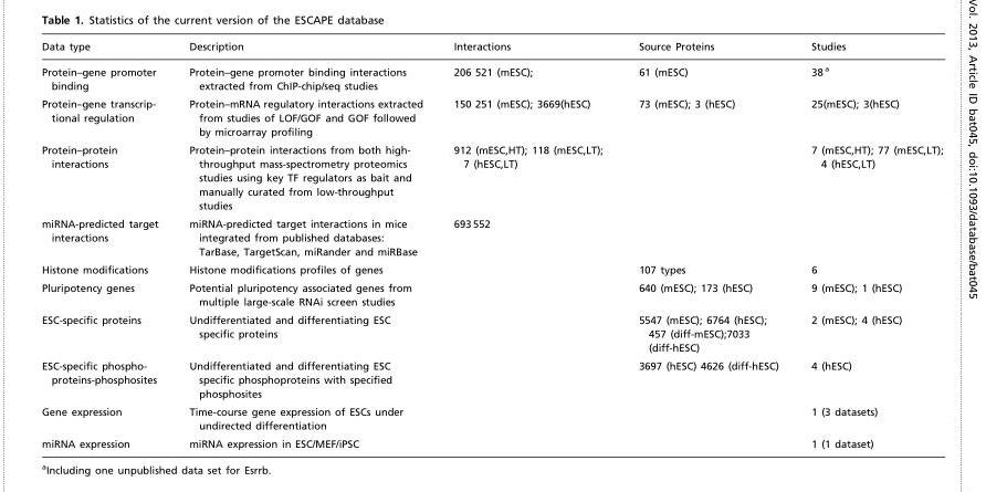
<table><thead><tr><td>Data type</td><td>Description</td><td>Interactions</td><td>Source Proteins</td><td>Studies</td></tr></thead><tbody><tr><td>Protein–gene promoter binding</td><td>Protein–gene promoter binding interactions extracted from ChIP-chip/seq studies</td><td>206 521 (mESC);</td><td>61 (mESC)</td><td>38 <sup>a</sup></td></tr><tr><td>Protein–gene transcrip- tional regulation</td><td>Protein–mRNA regulatory interactions extracted from studies of LOF/GOF and GOF followed by microarray profiling</td><td>150 251 (mESC); 3669(hESC)</td><td>73 (mESC); 3 (hESC)</td><td>25(mESC); 3(hESC)</td></tr><tr><td>Protein–protein interactions</td><td>Protein–protein interactions from both high- throughput mass-spectrometry proteomics studies using key TF regulators as bait and manually curated from low-throughput studies</td><td>912 (mESC,HT); 118 (mESC,LT); 7 (hESC,LT)</td><td></td><td>7 (mESC,HT); 77 (mESC,LT); 4 (hESC,LT)</td></tr><tr><td>miRNA-predicted target interactions</td><td>miRNA-predicted target interactions in mice integrated from published databases: TarBase, TargetScan, miRander and miRBase</td><td>693 552</td><td></td><td></td></tr><tr><td>Histone modifications</td><td>Histone modifications profiles of genes</td><td></td><td>107 types</td><td>6</td></tr><tr><td>Pluripotency genes</td><td>Potential pluripotency associated genes from multiple large-scale RNAi screen studies</td><td></td><td>640 (mESC); 173 (hESC)</td><td>9 (mESC); 1 (hESC)</td></tr><tr><td>ESC-specific proteins</td><td>Undifferentiated and differentiating ESC specific proteins</td><td></td><td>5547 (mESC); 6764 (hESC); 457 (diff-mESC);7033 (diff-hESC)</td><td>2 (mESC); 4 (hESC)</td></tr><tr><td>ESC-specific phospho- proteins-phosphosites</td><td>Undifferentiated and differentiating ESC specific phosphoproteins with specified phosphosites</td><td></td><td>3697 (hESC) 4626 (diff-hESC)</td><td>4 (hESC)</td></tr><tr><td>Gene expression</td><td>Time-course gene expression of ESCs under undirected differentiation</td><td></td><td></td><td>1 (3 datasets)</td></tr><tr><td>miRNA expression</td><td>miRNA expression in ESC/MEF/iPSC</td><td></td><td></td><td>1 (1 dataset)</td></tr></tbody></table>